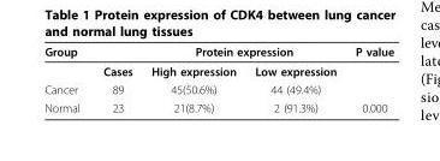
<table><thead><tr><td rowspan="2">Group</td><td rowspan="2">Cases</td><td colspan="2">Protein expression</td><td rowspan="2">P value</td></tr><tr><td>High expression</td><td>Low expression</td></tr></thead><tbody><tr><td>Cancer</td><td>89</td><td>45(50.6%)</td><td>44 (49.4%)</td><td></td></tr><tr><td>Normal</td><td>23</td><td>21(8.7%)</td><td>2 (91.3%)</td><td>0.000</td></tr></tbody></table>